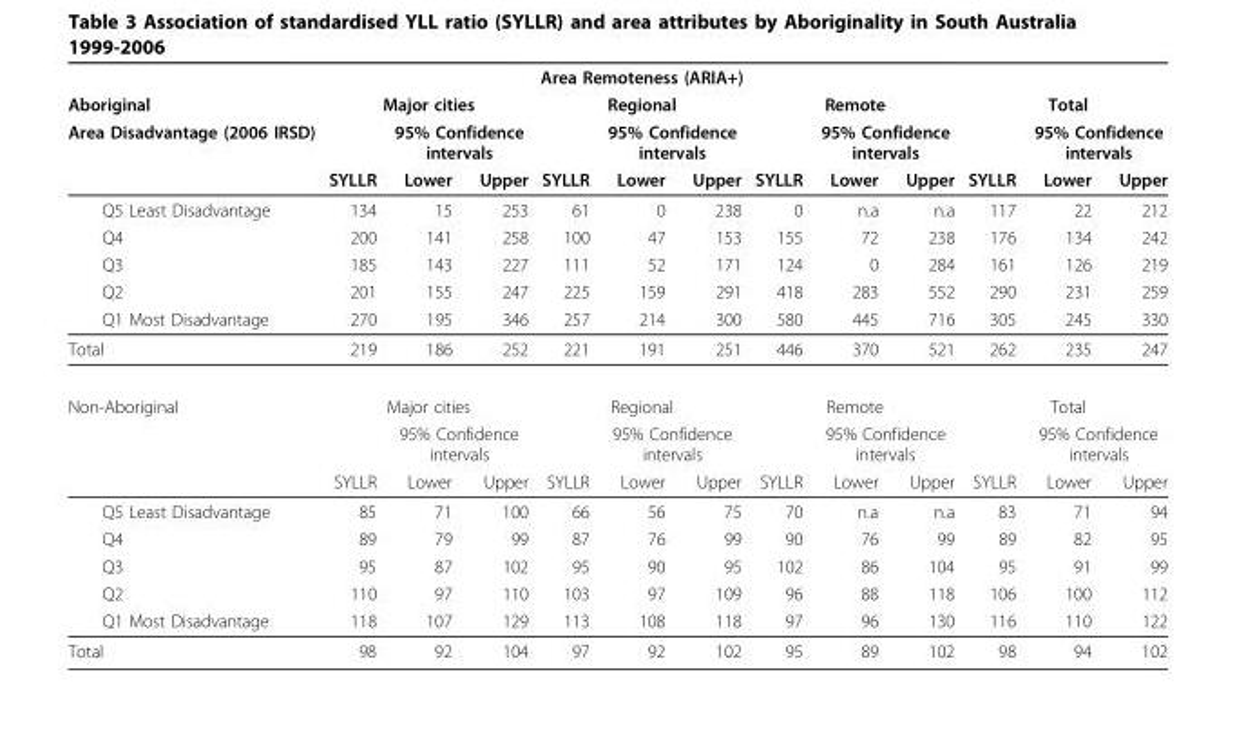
<table><thead><tr><td rowspan="4">Aboriginal Area Disadvantage (2006 IRSD)</td><td colspan="9">Area Remoteness (ARIA+)</td><td></td><td></td><td></td></tr><tr><td colspan="3">Major cities</td><td colspan="3">Regional</td><td colspan="3">Remote</td><td colspan="3">Total</td></tr><tr><td rowspan="2">SYLLR</td><td colspan="2">95% Confidence intervals</td><td rowspan="2">SYLLR</td><td colspan="2">95% Confidence intervals</td><td rowspan="2">SYLLR</td><td colspan="2">95% Confidence intervals</td><td rowspan="2">SYLLR</td><td colspan="2">95% Confidence intervals</td></tr><tr><td>Lower</td><td>Upper</td><td>Lower</td><td>Upper</td><td>Lower</td><td>Upper</td><td>Lower</td><td>Upper</td></tr></thead><tbody><tr><td>Q5 Least Disadvantage</td><td>134</td><td>15</td><td>253</td><td>61</td><td>0</td><td>238</td><td>0</td><td>n.a</td><td>n.a</td><td>117</td><td>22</td><td>212</td></tr><tr><td>Q4</td><td>200</td><td>141</td><td>258</td><td>100</td><td>47</td><td>153</td><td>155</td><td>72</td><td>238</td><td>176</td><td>134</td><td>242</td></tr><tr><td>Q3</td><td>185</td><td>143</td><td>227</td><td>111</td><td>52</td><td>171</td><td>124</td><td>0</td><td>284</td><td>161</td><td>126</td><td>219</td></tr><tr><td>Q2</td><td>201</td><td>155</td><td>247</td><td>225</td><td>159</td><td>291</td><td>418</td><td>283</td><td>552</td><td>290</td><td>231</td><td>259</td></tr><tr><td>Q1 Most Disadvantage</td><td>270</td><td>195</td><td>346</td><td>257</td><td>214</td><td>300</td><td>580</td><td>445</td><td>716</td><td>305</td><td>245</td><td>330</td></tr><tr><td>Total</td><td>219</td><td>186</td><td>252</td><td>221</td><td>191</td><td>251</td><td>446</td><td>370</td><td>521</td><td>262</td><td>235</td><td>247</td></tr><tr><td rowspan="3">Non-Aboriginal</td><td colspan="3">Major cities</td><td colspan="3">Regional</td><td colspan="3">Remote</td><td colspan="3">Total</td></tr><tr><td></td><td colspan="2">95% Confidence intervals</td><td></td><td colspan="2">95% Confidence intervals</td><td></td><td colspan="2">95% Confidence intervals</td><td></td><td colspan="2">95% Confidence intervals</td></tr><tr><td>SYLLR</td><td>Lower</td><td>Upper</td><td>SYLLR</td><td>Lower</td><td>Upper</td><td>SYLLR</td><td>Lower</td><td>Upper</td><td>SYLLR</td><td>Lower</td><td>Upper</td></tr><tr><td>Q5 Least Disadvantage</td><td>85</td><td>71</td><td>100</td><td>66</td><td>56</td><td>75</td><td>70</td><td>n.a</td><td>n.a</td><td>83</td><td>71</td><td>94</td></tr><tr><td>Q4</td><td>89</td><td>79</td><td>99</td><td>87</td><td>76</td><td>99</td><td>90</td><td>76</td><td>99</td><td>89</td><td>82</td><td>95</td></tr><tr><td>Q3</td><td>95</td><td>87</td><td>102</td><td>95</td><td>90</td><td>95</td><td>102</td><td>86</td><td>104</td><td>95</td><td>91</td><td>99</td></tr><tr><td>Q2</td><td>110</td><td>97</td><td>110</td><td>103</td><td>97</td><td>109</td><td>96</td><td>88</td><td>118</td><td>106</td><td>100</td><td>112</td></tr><tr><td>Q1 Most Disadvantage</td><td>118</td><td>107</td><td>129</td><td>113</td><td>108</td><td>118</td><td>97</td><td>96</td><td>130</td><td>116</td><td>110</td><td>122</td></tr><tr><td>Total</td><td>98</td><td>92</td><td>104</td><td>97</td><td>92</td><td>102</td><td>95</td><td>89</td><td>102</td><td>98</td><td>94</td><td>102</td></tr></tbody></table>